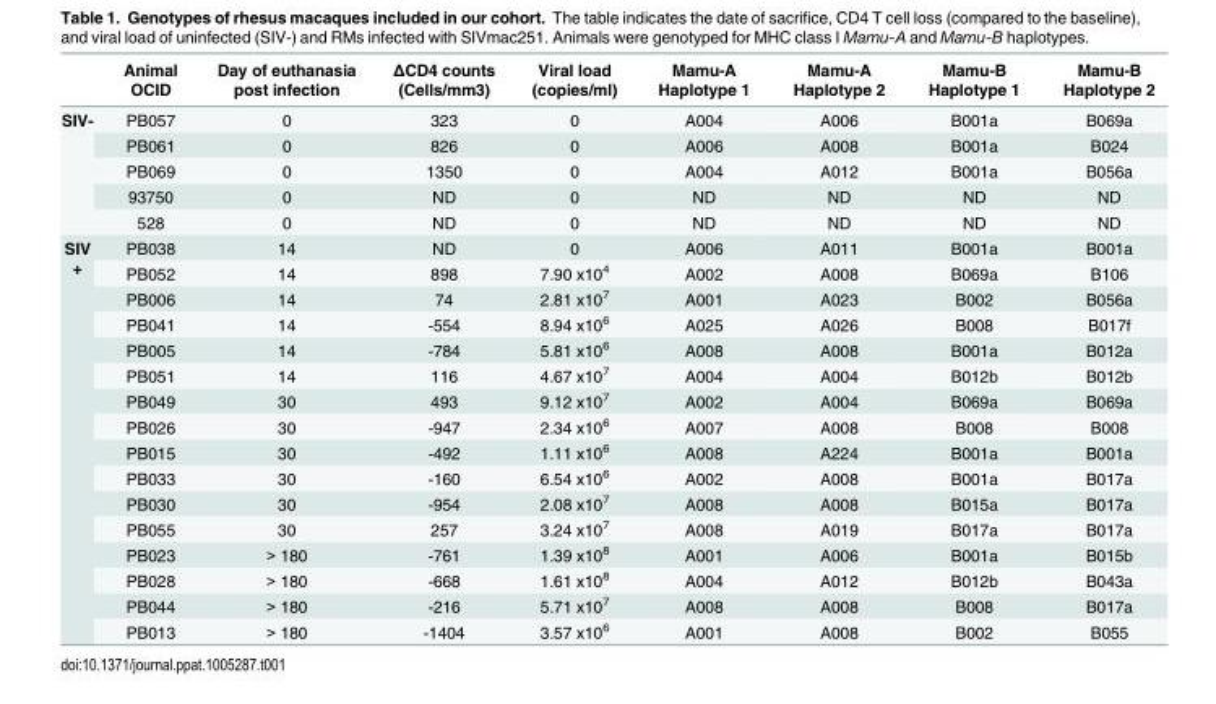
<table><thead><tr><td></td><td>Animal OCID</td><td>Day of euthanasia post infection</td><td>ΔCD4 counts (Cells/mm3)</td><td>Viral load (copies/ml)</td><td>Mamu-A Haplotype 1</td><td>Mamu-A Haplotype 2</td><td>Mamu-B Haplotype 1</td><td>Mamu-B Haplotype 2</td></tr></thead><tbody><tr><td rowspan="5">SIV-</td><td>PB057</td><td>0</td><td>323</td><td>0</td><td>A004</td><td>A006</td><td>B001a</td><td>B069a</td></tr><tr><td>PB061</td><td>0</td><td>826</td><td>0</td><td>A006</td><td>A008</td><td>B001a</td><td>B024</td></tr><tr><td>PB069</td><td>0</td><td>1350</td><td>0</td><td>A004</td><td>A012</td><td>B001a</td><td>B056a</td></tr><tr><td>93750</td><td>0</td><td>ND</td><td>0</td><td>ND</td><td>ND</td><td>ND</td><td>ND</td></tr><tr><td>528</td><td>0</td><td>ND</td><td>0</td><td>ND</td><td>ND</td><td>ND</td><td>ND</td></tr><tr><td rowspan="16">SIV +</td><td>PB038</td><td>14</td><td>ND</td><td>0</td><td>A006</td><td>A011</td><td>B001a</td><td>B001a</td></tr><tr><td>PB052</td><td>14</td><td>898</td><td>7.90 x10<sup>4</sup></td><td>A002</td><td>A008</td><td>B069a</td><td>B106</td></tr><tr><td>PB006</td><td>14</td><td>74</td><td>2.81 x10<sup>7</sup></td><td>A001</td><td>A023</td><td>B002</td><td>B056a</td></tr><tr><td>PB041</td><td>14</td><td>-554</td><td>8.94 x10<sup>6</sup></td><td>A025</td><td>A026</td><td>B008</td><td>B017f</td></tr><tr><td>PB005</td><td>14</td><td>-784</td><td>5.81 x10<sup>6</sup></td><td>A008</td><td>A008</td><td>B001a</td><td>B012a</td></tr><tr><td>PB051</td><td>14</td><td>116</td><td>4.67 x10<sup>7</sup></td><td>A004</td><td>A004</td><td>B012b</td><td>B012b</td></tr><tr><td>PB049</td><td>30</td><td>493</td><td>9.12 x10<sup>7</sup></td><td>A002</td><td>A004</td><td>B069a</td><td>B069a</td></tr><tr><td>PB026</td><td>30</td><td>-947</td><td>2.34 x10<sup>6</sup></td><td>A007</td><td>A008</td><td>B008</td><td>B008</td></tr><tr><td>PB015</td><td>30</td><td>-492</td><td>1.11 x10<sup>6</sup></td><td>A008</td><td>A224</td><td>B001a</td><td>B001a</td></tr><tr><td>PB033</td><td>30</td><td>-160</td><td>6.54 x10<sup>6</sup></td><td>A002</td><td>A008</td><td>B001a</td><td>B017a</td></tr><tr><td>PB030</td><td>30</td><td>-954</td><td>2.08 x10<sup>7</sup></td><td>A008</td><td>A008</td><td>B015a</td><td>B017a</td></tr><tr><td>PB055</td><td>30</td><td>257</td><td>3.24 x10<sup>7</sup></td><td>A008</td><td>A019</td><td>B017a</td><td>B017a</td></tr><tr><td>PB023</td><td>&gt; 180</td><td>-761</td><td>1.39 x10<sup>8</sup></td><td>A001</td><td>A006</td><td>B001a</td><td>B015b</td></tr><tr><td>PB028</td><td>&gt; 180</td><td>-668</td><td>1.61 x10<sup>8</sup></td><td>A004</td><td>A012</td><td>B012b</td><td>B043a</td></tr><tr><td>PB044</td><td>&gt; 180</td><td>-216</td><td>5.71 x10<sup>7</sup></td><td>A008</td><td>A008</td><td>B008</td><td>B017a</td></tr><tr><td>PB013</td><td>&gt; 180</td><td>-1404</td><td>3.57 x10<sup>6</sup></td><td>A001</td><td>A008</td><td>B002</td><td>B055</td></tr></tbody></table>